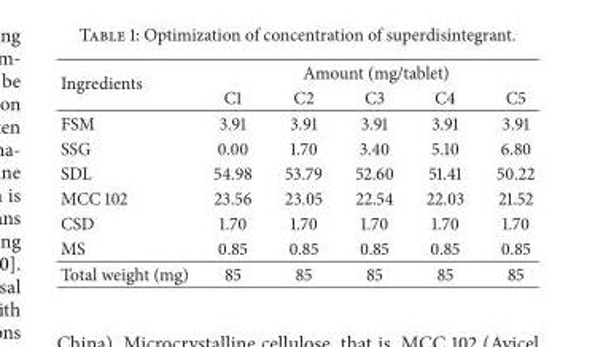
<table><thead><tr><td rowspan="2">Ingredients</td><td colspan="5">Amount (mg/tablet)</td></tr><tr><td>C1</td><td>C2</td><td>C3</td><td>C4</td><td>C5</td></tr></thead><tbody><tr><td>FSM</td><td>3.91</td><td>3.91</td><td>3.91</td><td>3.91</td><td>3.91</td></tr><tr><td>SSG</td><td>0.00</td><td>1.70</td><td>3.40</td><td>5.10</td><td>6.80</td></tr><tr><td>SDL</td><td>54.98</td><td>53.79</td><td>52.60</td><td>51.41</td><td>50.22</td></tr><tr><td>MCC 102</td><td>23.56</td><td>23.05</td><td>22.54</td><td>22.03</td><td>21.52</td></tr><tr><td>CSD</td><td>1.70</td><td>1.70</td><td>1.70</td><td>1.70</td><td>1.70</td></tr><tr><td>MS</td><td>0.85</td><td>0.85</td><td>0.85</td><td>0.85</td><td>0.85</td></tr><tr><td>Total weight (mg)</td><td>85</td><td>85</td><td>85</td><td>85</td><td>85</td></tr></tbody></table>